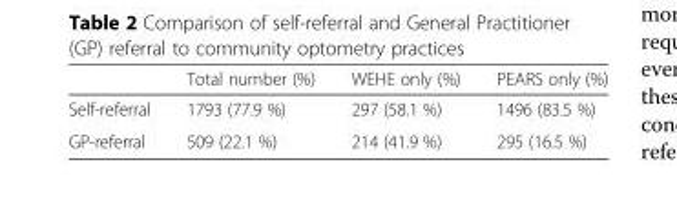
<table><thead><tr><td></td><td>Total number (%)</td><td>WEHE only (%)</td><td>PEARS only (%)</td></tr></thead><tbody><tr><td>Self-referral</td><td>1793 (77.9 %)</td><td>297 (58.1 %)</td><td>1496 (83.5 %)</td></tr><tr><td>GP-referral</td><td>509 (22.1 %)</td><td>214 (41.9 %)</td><td>295 (16.5 %)</td></tr></tbody></table>